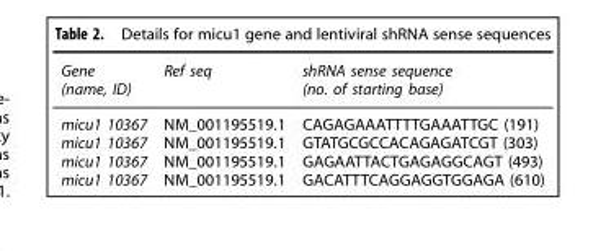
<table><thead><tr><td>Gene (name, ID)</td><td>Ref seq</td><td>shRNA sense sequence (no. of starting base)</td></tr></thead><tbody><tr><td>micu1 10367</td><td>NM_001195519.1</td><td>CAGAGAAATTTTGAAATTGC (191)</td></tr><tr><td>micu1 10367</td><td>NM_001195519.1</td><td>GTATGCGCCACAGAGATCGT (303)</td></tr><tr><td>micu1 10367</td><td>NM_001195519.1</td><td>GAGAATTACTGAGAGGCAGT (493)</td></tr><tr><td>micu1 10367</td><td>NM_001195519.1</td><td>GACATTTCAGGAGGTGGAGA (610)</td></tr></tbody></table>